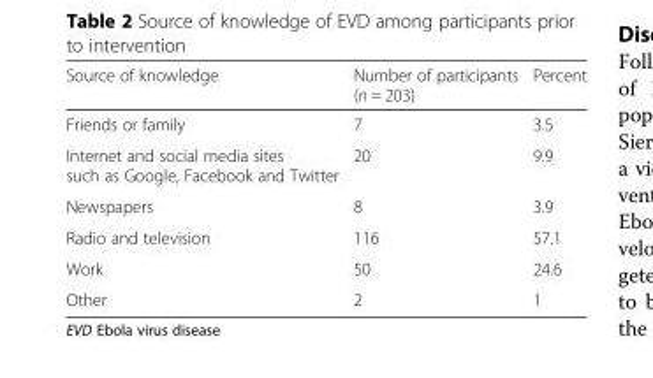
<table><thead><tr><td>Source of knowledge</td><td>Number of participants (n = 203)</td><td>Percent</td></tr></thead><tbody><tr><td>Friends or family</td><td>7</td><td>3.5</td></tr><tr><td>Internet and social media sites such as Google, Facebook and Twitter</td><td>20</td><td>9.9</td></tr><tr><td>Newspapers</td><td>8</td><td>3.9</td></tr><tr><td>Radio and television</td><td>116</td><td>57.1</td></tr><tr><td>Work</td><td>50</td><td>24.6</td></tr><tr><td>Other</td><td>2</td><td>1</td></tr></tbody></table>